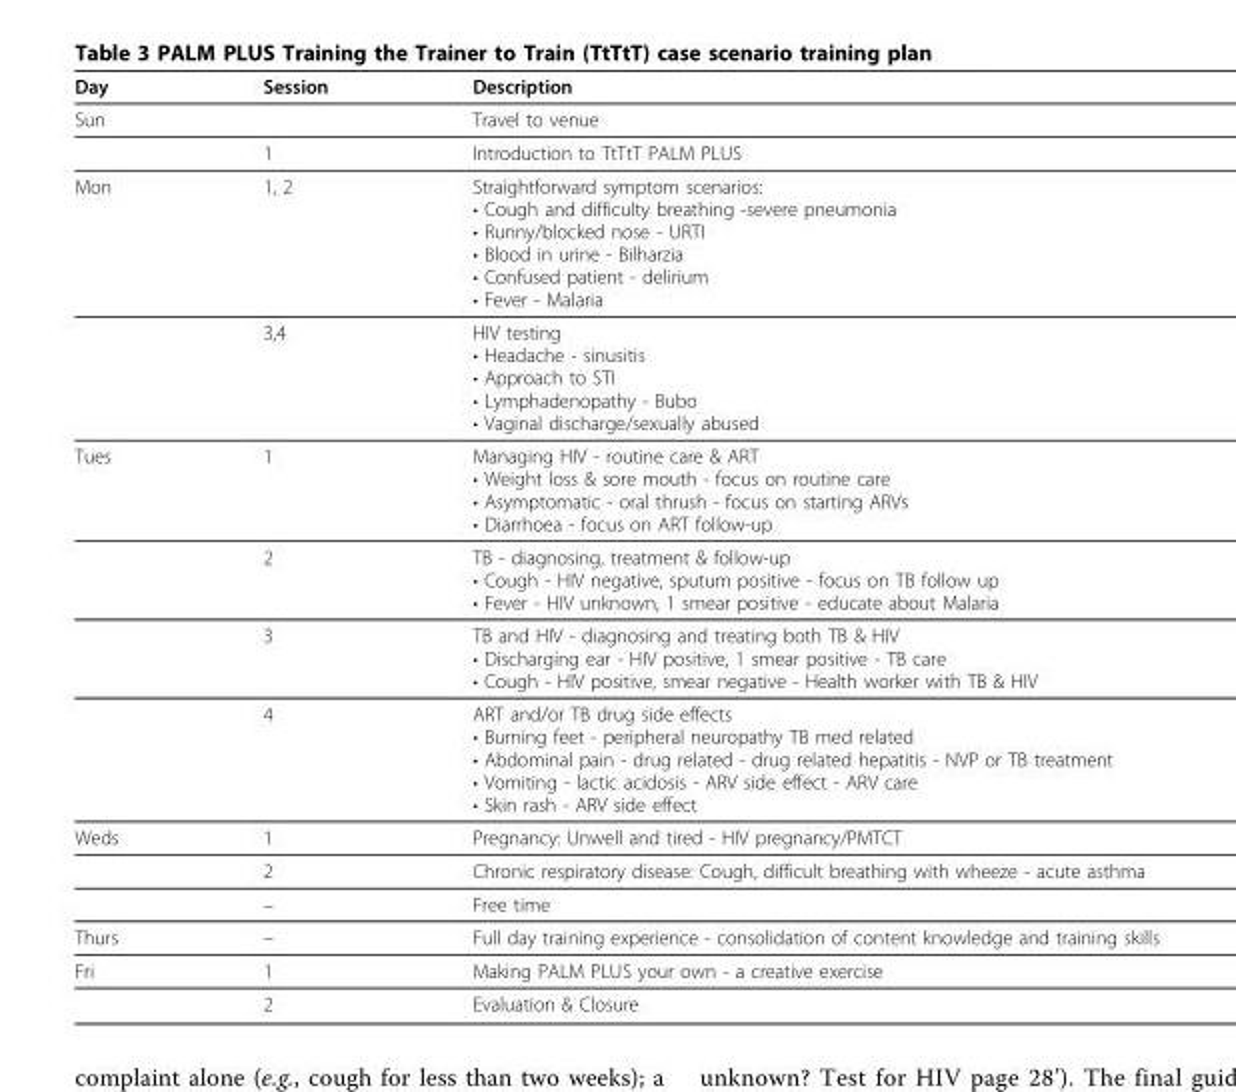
<table><thead><tr><td>Day</td><td>Session</td><td>Description</td></tr></thead><tbody><tr><td rowspan="2">Sun</td><td></td><td>Travel to venue</td></tr><tr><td>1</td><td>Introduction to TtTtT PALM PLUS</td></tr><tr><td rowspan="2">Mon</td><td>1, 2</td><td>Straightforward symptom scenarios: • Cough and difficulty breathing -severe pneumonia • Runny/blocked nose - URTI • Blood in urine - Bilharzia • Confused patient - delirium • Fever - Malaria</td></tr><tr><td>3,4</td><td>HIV testing • Headache - sinusitis • Approach to STI • Lymphadenopathy - Bubo • Vaginal discharge/sexually abused</td></tr><tr><td rowspan="4">Tues</td><td>1</td><td>Managing HIV - routine care &amp; ART • Weight loss &amp; sore mouth - focus on routine care • Asymptomatic - oral thrush - focus on starting ARVs • Diarrhoea - focus on ART follow-up</td></tr><tr><td>2</td><td>TB - diagnosing, treatment &amp; follow-up • Cough - HIV negative, sputum positive - focus on TB follow up • Fever - HIV unknown, 1 smear positive - educate about Malaria</td></tr><tr><td>3</td><td>TB and HIV - diagnosing and treating both TB &amp; HIV • Discharging ear - HIV positive, 1 smear positive - TB care • Cough - HIV positive, smear negative - Health worker with TB &amp; HIV</td></tr><tr><td>4</td><td>ART and/or TB drug side effects • Burning feet - peripheral neuropathy TB med related • Abdominal pain - drug related - drug related hepatitis - NVP or TB treatment • Vomiting - lactic acidosis - ARV side effect - ARV care • Skin rash - ARV side effect</td></tr><tr><td rowspan="3">Weds</td><td>1</td><td>Pregnancy: Unwell and tired - HIV pregnancy/PMTCT</td></tr><tr><td>2</td><td>Chronic respiratory disease: Cough, difficult breathing with wheeze - acute asthma</td></tr><tr><td>–</td><td>Free time</td></tr><tr><td>Thurs</td><td>–</td><td>Full day training experience - consolidation of content knowledge and training skills</td></tr><tr><td rowspan="2">Fri</td><td>1</td><td>Making PALM PLUS your own - a creative exercise</td></tr><tr><td>2</td><td>Evaluation &amp; Closure</td></tr></tbody></table>